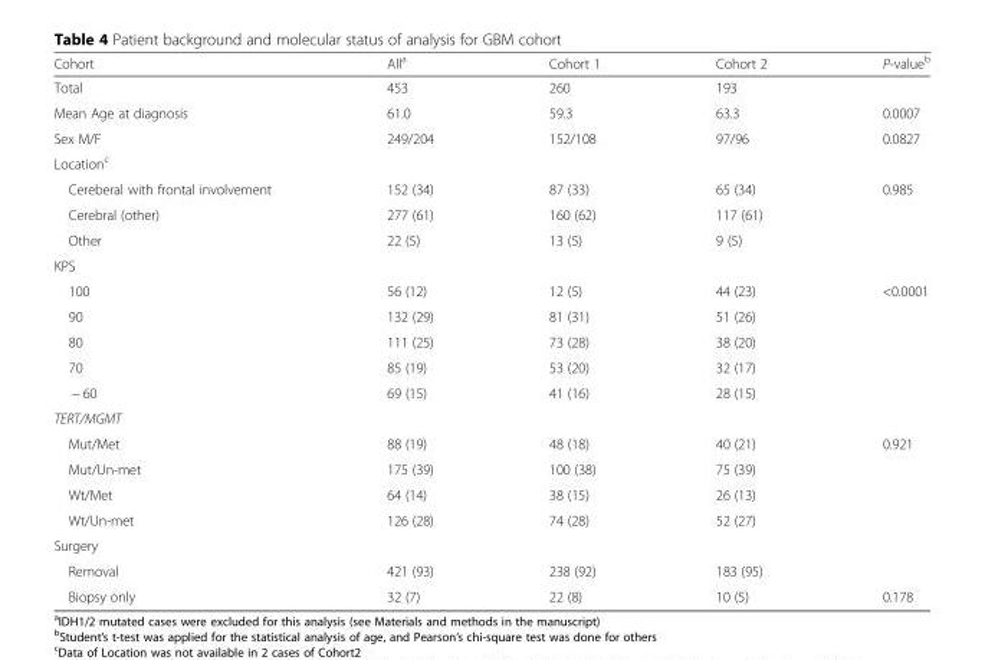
<table><thead><tr><td>Cohort</td><td>All<sup>a</sup></td><td>Cohort 1</td><td>Cohort 2</td><td>P-value<sup>b</sup></td></tr></thead><tbody><tr><td>Total</td><td>453</td><td>260</td><td>193</td><td></td></tr><tr><td>Mean Age at diagnosis</td><td>61.0</td><td>59.3</td><td>63.3</td><td>0.0007</td></tr><tr><td>Sex M/F</td><td>249/204</td><td>152/108</td><td>97/96</td><td>0.0827</td></tr><tr><td colspan="5">Location<sup>c</sup></td></tr><tr><td>Cereberal with frontal involvement</td><td>152 (34)</td><td>87 (33)</td><td>65 (34)</td><td rowspan="3">0.985</td></tr><tr><td>Cerebral (other)</td><td>277 (61)</td><td>160 (62)</td><td>117 (61)</td></tr><tr><td>Other</td><td>22 (5)</td><td>13 (5)</td><td>9 (5)</td></tr><tr><td colspan="5">KPS</td></tr><tr><td>100</td><td>56 (12)</td><td>12 (5)</td><td>44 (23)</td><td rowspan="5">&lt;0.0001</td></tr><tr><td>90</td><td>132 (29)</td><td>81 (31)</td><td>51 (26)</td></tr><tr><td>80</td><td>111 (25)</td><td>73 (28)</td><td>38 (20)</td></tr><tr><td>70</td><td>85 (19)</td><td>53 (20)</td><td>32 (17)</td></tr><tr><td>− 60</td><td>69 (15)</td><td>41 (16)</td><td>28 (15)</td></tr><tr><td colspan="5">TERT/MGMT</td></tr><tr><td>Mut/Met</td><td>88 (19)</td><td>48 (18)</td><td>40 (21)</td><td rowspan="4">0.921</td></tr><tr><td>Mut/Un-met</td><td>175 (39)</td><td>100 (38)</td><td>75 (39)</td></tr><tr><td>Wt/Met</td><td>64 (14)</td><td>38 (15)</td><td>26 (13)</td></tr><tr><td>Wt/Un-met</td><td>126 (28)</td><td>74 (28)</td><td>52 (27)</td></tr><tr><td colspan="5">Surgery</td></tr><tr><td>Removal</td><td>421 (93)</td><td>238 (92)</td><td>183 (95)</td><td></td></tr><tr><td>Biopsy only</td><td>32 (7)</td><td>22 (8)</td><td>10 (5)</td><td>0.178</td></tr></tbody></table>